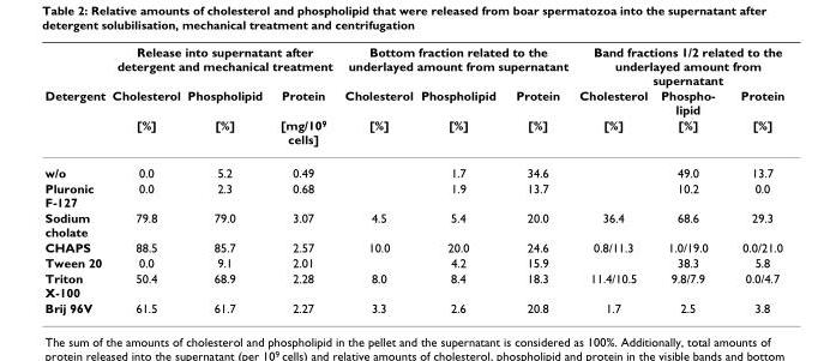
<table><thead><tr><td rowspan="3">Detergent</td><td colspan="3">Release into supernatant after detergent and mechanical treatment</td><td colspan="3">Bottom fraction related to the underlayed amount from supernatant</td><td colspan="3">Band fractions 1/2 related to the underlayed amount from supernatant</td></tr><tr><td rowspan="2">Cholesterol [%]</td><td rowspan="2">Phospholipid [%]</td><td rowspan="2">Protein [mg/10<sup>9</sup> cells]</td><td rowspan="2">Cholesterol [%]</td><td rowspan="2">Phospholipid [%]</td><td rowspan="2">Protein [%]</td><td rowspan="2">Cholesterol [%]</td><td rowspan="2">Phospho- lipid [%]</td><td rowspan="2">Protein [%]</td></tr><tr></tr></thead><tbody><tr><td>w/o</td><td>0.0</td><td>5.2</td><td>0.49</td><td></td><td>1.7</td><td>34.6</td><td></td><td>49.0</td><td>13.7</td></tr><tr><td>Pluronic F-127</td><td>0.0</td><td>2.3</td><td>0.68</td><td></td><td>1.9</td><td>13.7</td><td></td><td>10.2</td><td>0.0</td></tr><tr><td>Sodium cholate</td><td>79.8</td><td>79.0</td><td>3.07</td><td>4.5</td><td>5.4</td><td>20.0</td><td>36.4</td><td>68.6</td><td>29.3</td></tr><tr><td>CHAPS</td><td>88.5</td><td>85.7</td><td>2.57</td><td>10.0</td><td>20.0</td><td>24.6</td><td>0.8/11.3</td><td>1.0/19.0</td><td>0.0/21.0</td></tr><tr><td>Tween 20</td><td>0.0</td><td>9.1</td><td>2.01</td><td></td><td>4.2</td><td>15.9</td><td></td><td>38.3</td><td>5.8</td></tr><tr><td>Triton X-100</td><td>50.4</td><td>68.9</td><td>2.28</td><td>8.0</td><td>8.4</td><td>18.3</td><td>11.4/10.5</td><td>9.8/7.9</td><td>0.0/4.7</td></tr><tr><td>Brij 96V</td><td>61.5</td><td>61.7</td><td>2.27</td><td>3.3</td><td>2.6</td><td>20.8</td><td>1.7</td><td>2.5</td><td>3.8</td></tr></tbody></table>